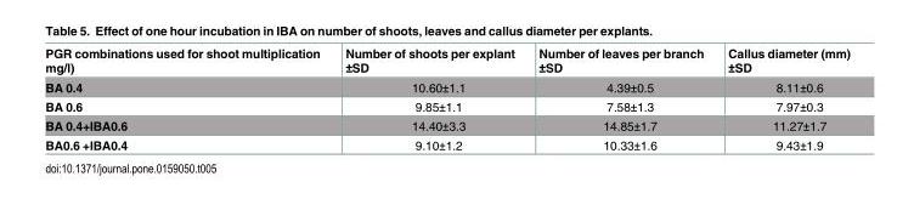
<table><thead><tr><td>PGR combinations used for shoot multiplication mg/l)</td><td>Number of shoots per explant ±SD</td><td>Number of leaves per branch ±SD</td><td>Callus diameter (mm) ±SD</td></tr></thead><tbody><tr><td>BA 0.4</td><td>10.60±1.1</td><td>4.39±0.5</td><td>8.11±0.6</td></tr><tr><td>BA 0.6</td><td>9.85±1.1</td><td>7.58±1.3</td><td>7.97±0.3</td></tr><tr><td>BA 0.4+IBA0.6</td><td>14.40±3.3</td><td>14.85±1.7</td><td>11.27±1.7</td></tr><tr><td>BA0.6 +IBA0.4</td><td>9.10±1.2</td><td>10.33±1.6</td><td>9.43±1.9</td></tr></tbody></table>